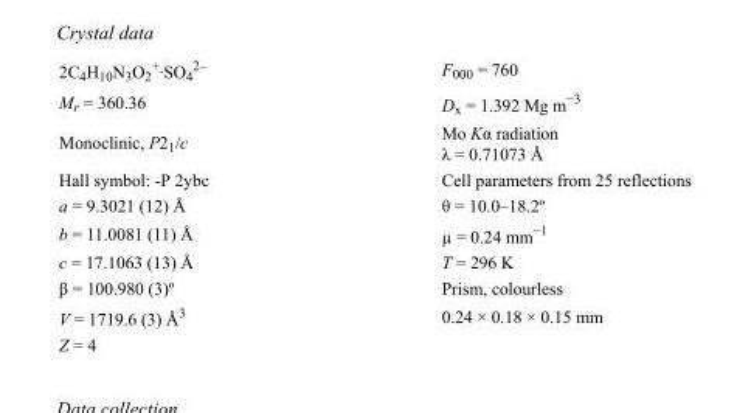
<table><tbody><tr><td>2C<sub>4</sub>H<sub>10</sub>N<sub>3</sub>O<sub>2</sub> <sup>+</sup>·SO<sub>4</sub> <sup>2–</sup></td><td>F000 = 760</td></tr><tr><td>M<sub>r</sub> = 360.36</td><td>D<sub>x</sub> = 1.392 Mg m<sup>−3</sup></td></tr><tr><td>Monoclinic, P2<sub>1</sub>/c</td><td>Mo Kα radiation λ = 0.71073 Å</td></tr><tr><td>Hall symbol: -P 2ybc</td><td>Cell parameters from 25 reflections</td></tr><tr><td>a = 9.3021 (12) Å</td><td>θ = 10.0–18.2º</td></tr><tr><td>b = 11.0081 (11) Å</td><td>µ = 0.24 mm<sup>−1</sup></td></tr><tr><td>c = 17.1063 (13) Å</td><td>T = 296 K</td></tr><tr><td>β = 100.980 (3)º</td><td>Prism, colourless</td></tr><tr><td>V = 1719.6 (3) Å<sup>3</sup></td><td>0.24 × 0.18 × 0.15 mm</td></tr><tr><td>Z = 4</td><td></td></tr></tbody></table>